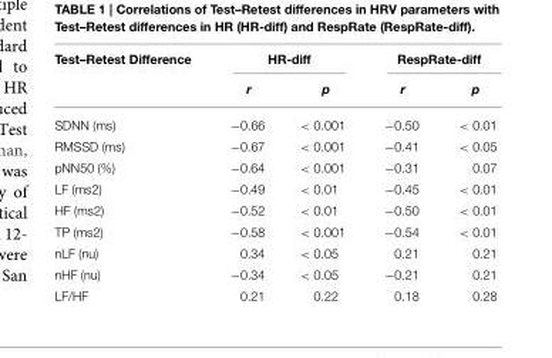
<table><thead><tr><td rowspan="2">Test–Retest Difference</td><td colspan="2">HR-diff</td><td colspan="2">RespRate-diff</td></tr><tr><td>r</td><td>p</td><td>r</td><td>p</td></tr></thead><tbody><tr><td>SDNN (ms)</td><td>−0.66</td><td>&lt; 0.001</td><td>−0.50</td><td>&lt; 0.01</td></tr><tr><td>RMSSD (ms)</td><td>−0.67</td><td>&lt; 0.001</td><td>−0.41</td><td>&lt; 0.05</td></tr><tr><td>pNN50 (%)</td><td>−0.64</td><td>&lt; 0.001</td><td>−0.31</td><td>0.07</td></tr><tr><td>LF (ms2)</td><td>−0.49</td><td>&lt; 0.01</td><td>−0.45</td><td>&lt; 0.01</td></tr><tr><td>HF (ms2)</td><td>−0.52</td><td>&lt; 0.01</td><td>−0.50</td><td>&lt; 0.01</td></tr><tr><td>TP (ms2)</td><td>−0.58</td><td>&lt; 0.001</td><td>−0.54</td><td>&lt; 0.01</td></tr><tr><td>nLF (nu)</td><td>0.34</td><td>&lt; 0.05</td><td>0.21</td><td>0.21</td></tr><tr><td>nHF (nu)</td><td>−0.34</td><td>&lt; 0.05</td><td>−0.21</td><td>0.21</td></tr><tr><td>LF/HF</td><td>0.21</td><td>0.22</td><td>0.18</td><td>0.28</td></tr></tbody></table>